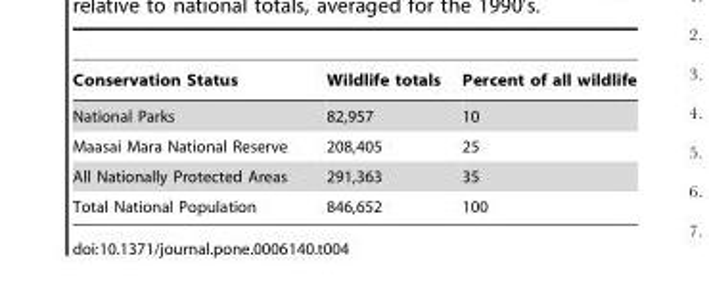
<table><thead><tr><td>Conservation Status</td><td>Wildlife totals</td><td>Percent of all wildlife</td></tr></thead><tbody><tr><td>National Parks</td><td>82,957</td><td>10</td></tr><tr><td>Maasai Mara National Reserve</td><td>208,405</td><td>25</td></tr><tr><td>All Nationally Protected Areas</td><td>291,363</td><td>35</td></tr><tr><td>Total National Population</td><td>846,652</td><td>100</td></tr></tbody></table>